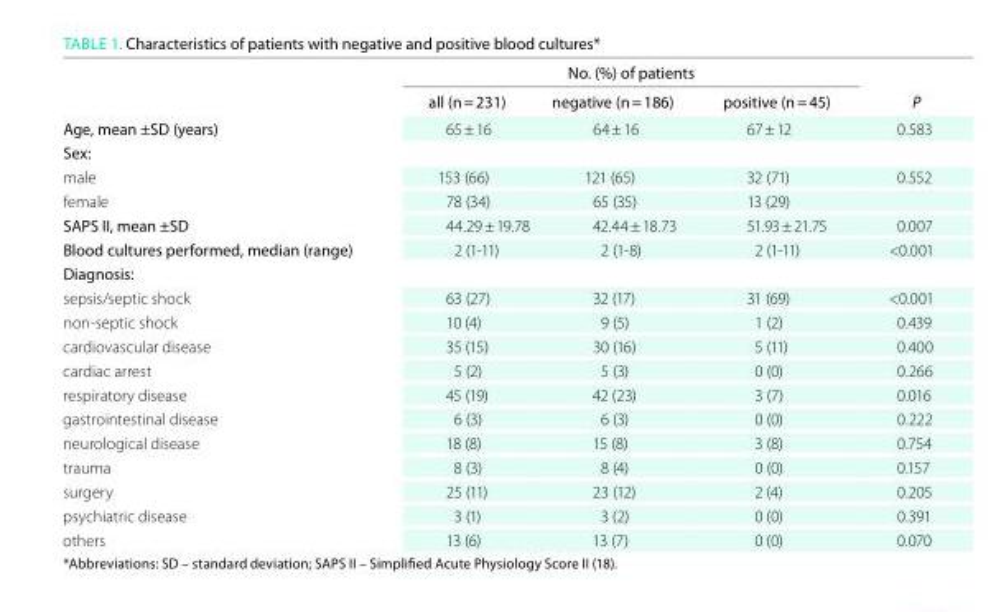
<table><thead><tr><td rowspan="2"></td><td colspan="3">No. (%) of patients</td><td rowspan="2">P</td></tr><tr><td>all (n = 231)</td><td>negative (n = 186)</td><td>positive (n = 45)</td></tr></thead><tbody><tr><td>Age, mean ±SD (years)</td><td>65 ± 16</td><td>64 ± 16</td><td>67 ± 12</td><td>0.583</td></tr><tr><td colspan="5">Sex:</td></tr><tr><td>male</td><td>153 (66)</td><td>121 (65)</td><td>32 (71)</td><td>0.552</td></tr><tr><td>female</td><td>78 (34)</td><td>65 (35)</td><td>13 (29)</td><td></td></tr><tr><td>SAPS ii, mean ±SD</td><td>44.29 ± 19.78</td><td>42.44 ± 18.73</td><td>51.93 ± 21.75</td><td>0.007</td></tr><tr><td>Blood cultures performed, median (range)</td><td>2 (1-11)</td><td>2 (1-8)</td><td>2 (1-11)</td><td>&lt;0.001</td></tr><tr><td colspan="5">Diagnosis:</td></tr><tr><td>sepsis/septic shock</td><td>63 (27)</td><td>32 (17)</td><td>31 (69)</td><td>&lt;0.001</td></tr><tr><td>non-septic shock</td><td>10 (4)</td><td>9 (5)</td><td>1 (2)</td><td>0.439</td></tr><tr><td>cardiovascular disease</td><td>35 (15)</td><td>30 (16)</td><td>5 (11)</td><td>0.400</td></tr><tr><td>cardiac arrest</td><td>5 (2)</td><td>5 (3)</td><td>0 (0)</td><td>0.266</td></tr><tr><td>respiratory disease</td><td>45 (19)</td><td>42 (23)</td><td>3 (7)</td><td>0.016</td></tr><tr><td>gastrointestinal disease</td><td>6 (3)</td><td>6 (3)</td><td>0 (0)</td><td>0.222</td></tr><tr><td>neurological disease</td><td>18 (8)</td><td>15 (8)</td><td>3 (8)</td><td>0.754</td></tr><tr><td>trauma</td><td>8 (3)</td><td>8 (4)</td><td>0 (0)</td><td>0.157</td></tr><tr><td>surgery</td><td>25 (11)</td><td>23 (12)</td><td>2 (4)</td><td>0.205</td></tr><tr><td>psychiatric disease</td><td>3 (1)</td><td>3 (2)</td><td>0 (0)</td><td>0.391</td></tr><tr><td>others</td><td>13 (6)</td><td>13 (7)</td><td>0 (0)</td><td>0.070</td></tr></tbody></table>